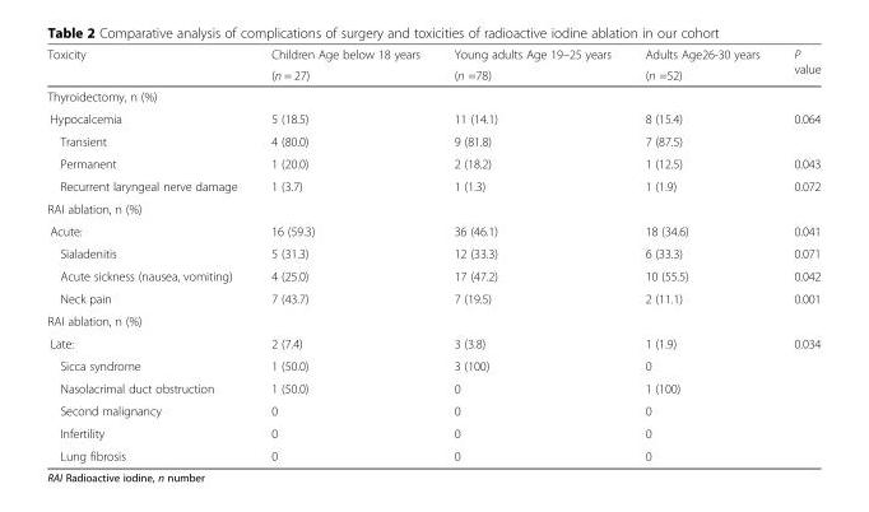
<table><thead><tr><td rowspan="2">Toxicity</td><td rowspan="2">Children Age below 18 years (n = 27)</td><td rowspan="2">Young adults Age 19–25 years (n =78)</td><td rowspan="2">Adults Age26-30 years (n =52)</td><td rowspan="2">P value</td></tr><tr></tr></thead><tbody><tr><td colspan="5">Thyroidectomy, n (%)</td></tr><tr><td>Hypocalcemia</td><td>5 (18.5)</td><td>11 (14.1)</td><td>8 (15.4)</td><td>0.064</td></tr><tr><td>Transient</td><td>4 (80.0)</td><td>9 (81.8)</td><td>7 (87.5)</td><td></td></tr><tr><td>Permanent</td><td>1 (20.0)</td><td>2 (18.2)</td><td>1 (12.5)</td><td>0.043</td></tr><tr><td>Recurrent laryngeal nerve damage</td><td>1 (3.7)</td><td>1 (1.3)</td><td>1 (1.9)</td><td>0.072</td></tr><tr><td colspan="5">RAI ablation, n (%)</td></tr><tr><td>Acute:</td><td>16 (59.3)</td><td>36 (46.1)</td><td>18 (34.6)</td><td>0.041</td></tr><tr><td>Sialadenitis</td><td>5 (31.3)</td><td>12 (33.3)</td><td>6 (33.3)</td><td>0.071</td></tr><tr><td>Acute sickness (nausea, vomiting)</td><td>4 (25.0)</td><td>17 (47.2)</td><td>10 (55.5)</td><td>0.042</td></tr><tr><td>Neck pain</td><td>7 (43.7)</td><td>7 (19.5)</td><td>2 (11.1)</td><td>0.001</td></tr><tr><td colspan="5">RAI ablation, n (%)</td></tr><tr><td>Late:</td><td>2 (7.4)</td><td>3 (3.8)</td><td>1 (1.9)</td><td>0.034</td></tr><tr><td>Sicca syndrome</td><td>1 (50.0)</td><td>3 (100)</td><td>0</td><td></td></tr><tr><td>Nasolacrimal duct obstruction</td><td>1 (50.0)</td><td>0</td><td>1 (100)</td><td></td></tr><tr><td>Second malignancy</td><td>0</td><td>0</td><td>0</td><td></td></tr><tr><td>Infertility</td><td>0</td><td>0</td><td>0</td><td></td></tr><tr><td>Lung fibrosis</td><td>0</td><td>0</td><td>0</td><td></td></tr></tbody></table>